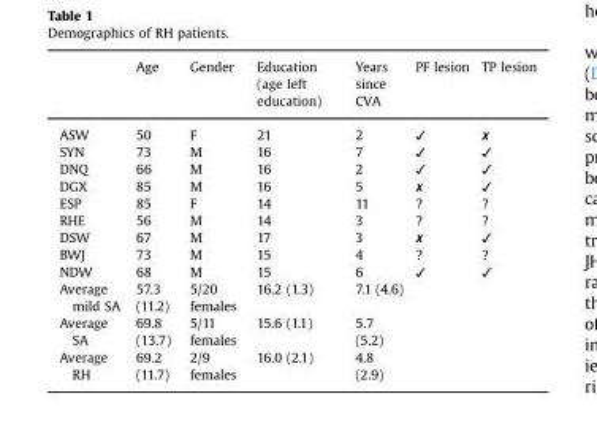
<table><thead><tr><td></td><td>Age</td><td>Gender</td><td>Education (age left education)</td><td>Years since CVA</td><td>PF lesion</td><td>TP lesion</td></tr></thead><tbody><tr><td>ASW</td><td>50</td><td>F</td><td>21</td><td>2</td><td>✓</td><td>✗</td></tr><tr><td>SYN</td><td>73</td><td>M</td><td>16</td><td>7</td><td>✓</td><td>✓</td></tr><tr><td>DNQ</td><td>66</td><td>M</td><td>16</td><td>2</td><td>✓</td><td>✓</td></tr><tr><td>DGX</td><td>85</td><td>M</td><td>16</td><td>5</td><td>✗</td><td>✓</td></tr><tr><td>ESP</td><td>85</td><td>F</td><td>14</td><td>11</td><td>?</td><td>?</td></tr><tr><td>RHE</td><td>56</td><td>M</td><td>14</td><td>3</td><td>?</td><td>?</td></tr><tr><td>DSW</td><td>67</td><td>M</td><td>17</td><td>3</td><td>✗</td><td>✓</td></tr><tr><td>BWJ</td><td>73</td><td>M</td><td>15</td><td>4</td><td>?</td><td>?</td></tr><tr><td>NDW</td><td>68</td><td>M</td><td>15</td><td>6</td><td>✓</td><td>✓</td></tr><tr><td>Average mild SA</td><td>57.3 (11.2)</td><td>5/20 females</td><td>16.2 (1.3)</td><td>7.1 (4.6)</td><td></td><td></td></tr><tr><td>Average SA</td><td>69.8 (13.7)</td><td>5/11 females</td><td>15.6 (1.1)</td><td>5.7 (5.2)</td><td></td><td></td></tr><tr><td>Average RH</td><td>69.2 (11.7)</td><td>2/9 females</td><td>16.0 (2.1)</td><td>4.8 (2.9)</td><td></td><td></td></tr></tbody></table>